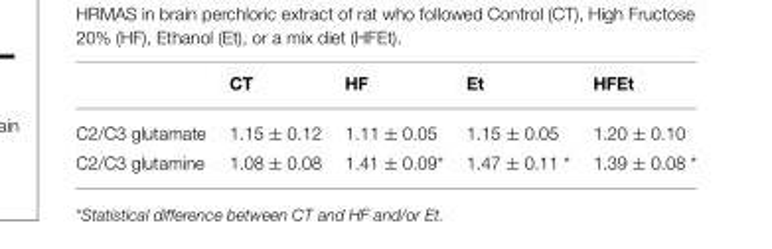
<table><thead><tr><td></td><td>CT</td><td>HF</td><td>Et</td><td>HFEt</td></tr></thead><tbody><tr><td>C2/C3 glutamate</td><td>1.15 ± 0.12</td><td>1.11 ± 0.05</td><td>1.15 ± 0.05</td><td>1.20 ± 0.10</td></tr><tr><td>C2/C3 glutamine</td><td>1.08 ± 0.08</td><td>1.41 ± 0.09*</td><td>1.47 ± 0.11 *</td><td>1.39 ± 0.08 *</td></tr></tbody></table>